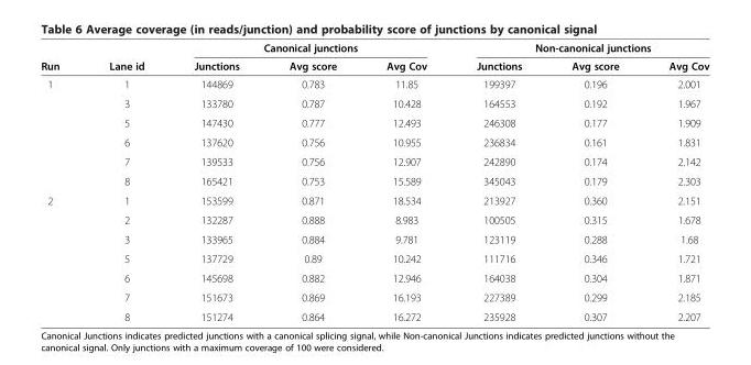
<table><thead><tr><td rowspan="2">Run</td><td rowspan="2">Lane id</td><td colspan="3">Canonical junctions</td><td colspan="3">Non-canonical junctions</td></tr><tr><td>Junctions</td><td>Avg score</td><td>Avg Cov</td><td>Junctions</td><td>Avg score</td><td>Avg Cov</td></tr></thead><tbody><tr><td rowspan="6">1</td><td>1</td><td>144869</td><td>0.783</td><td>11.85</td><td>199397</td><td>0.196</td><td>2.001</td></tr><tr><td>3</td><td>133780</td><td>0.787</td><td>10.428</td><td>164553</td><td>0.192</td><td>1.967</td></tr><tr><td>5</td><td>147430</td><td>0.777</td><td>12.493</td><td>246308</td><td>0.177</td><td>1.909</td></tr><tr><td>6</td><td>137620</td><td>0.756</td><td>10.955</td><td>236834</td><td>0.161</td><td>1.831</td></tr><tr><td>7</td><td>139533</td><td>0.756</td><td>12.907</td><td>242890</td><td>0.174</td><td>2.142</td></tr><tr><td>8</td><td>165421</td><td>0.753</td><td>15.589</td><td>345043</td><td>0.179</td><td>2.303</td></tr><tr><td rowspan="7">2</td><td>1</td><td>153599</td><td>0.871</td><td>18.534</td><td>213927</td><td>0.360</td><td>2.151</td></tr><tr><td>2</td><td>132287</td><td>0.888</td><td>8.983</td><td>100505</td><td>0.315</td><td>1.678</td></tr><tr><td>3</td><td>133965</td><td>0.884</td><td>9.781</td><td>123119</td><td>0.288</td><td>1.68</td></tr><tr><td>5</td><td>137729</td><td>0.89</td><td>10.242</td><td>111716</td><td>0.346</td><td>1.721</td></tr><tr><td>6</td><td>145698</td><td>0.882</td><td>12.946</td><td>164038</td><td>0.304</td><td>1.871</td></tr><tr><td>7</td><td>151673</td><td>0.869</td><td>16.193</td><td>227389</td><td>0.299</td><td>2.185</td></tr><tr><td>8</td><td>151274</td><td>0.864</td><td>16.272</td><td>235928</td><td>0.307</td><td>2.207</td></tr></tbody></table>